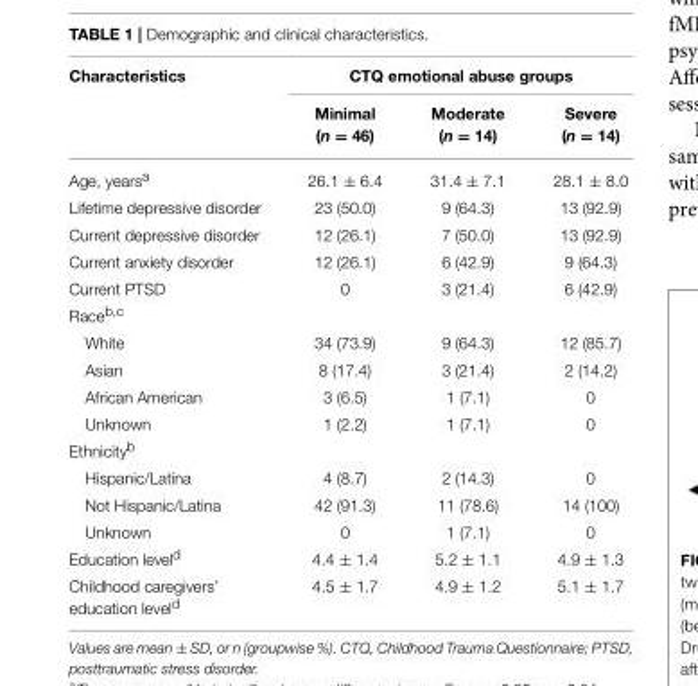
<table><thead><tr><td rowspan="2">Characteristics</td><td colspan="3">CTQ emotional abuse groups</td></tr><tr><td>Minimal (n = 46)</td><td>Moderate (n = 14)</td><td>Severe (n = 14)</td></tr></thead><tbody><tr><td>Age, years<sup>a</sup></td><td>26.1 ± 6.4</td><td>31.4 ± 7.1</td><td>28.1 ± 8.0</td></tr><tr><td>Lifetime depressive disorder</td><td>23 (50.0)</td><td>9 (64.3)</td><td>13 (92.9)</td></tr><tr><td>Current depressive disorder</td><td>12 (26.1)</td><td>7 (50.0)</td><td>13 (92.9)</td></tr><tr><td>Current anxiety disorder</td><td>12 (26.1)</td><td>6 (42.9)</td><td>9 (64.3)</td></tr><tr><td>Current PTSD</td><td>0</td><td>3 (21.4)</td><td>6 (42.9)</td></tr><tr><td colspan="4">Race<sup>b,c</sup></td></tr><tr><td>White</td><td>34 (73.9)</td><td>9 (64.3)</td><td>12 (85.7)</td></tr><tr><td>Asian</td><td>8 (17.4)</td><td>3 (21.4)</td><td>2 (14.2)</td></tr><tr><td>African American</td><td>3 (6.5)</td><td>1 (7.1)</td><td>0</td></tr><tr><td>Unknown</td><td>1 (2.2)</td><td>1 (7.1)</td><td>0</td></tr><tr><td colspan="4">Ethnicity<sup>b</sup></td></tr><tr><td>Hispanic/Latina</td><td>4 (8.7)</td><td>2 (14.3)</td><td>0</td></tr><tr><td>Not Hispanic/Latina</td><td>42 (91.3)</td><td>11 (78.6)</td><td>14 (100)</td></tr><tr><td>Unknown</td><td>0</td><td>1 (7.1)</td><td>0</td></tr><tr><td>Education level<sup>d</sup></td><td>4.4 ± 1.4</td><td>5.2 ± 1.1</td><td>4.9 ± 1.3</td></tr><tr><td>Childhood caregivers’ education level<sup>d</sup></td><td>4.5 ± 1.7</td><td>4.9 ± 1.2</td><td>5.1 ± 1.7</td></tr></tbody></table>